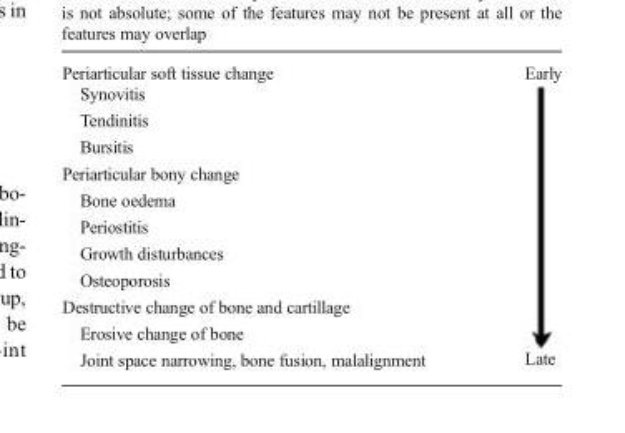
<table><tbody><tr><td>Periarticular soft tissue change</td><td rowspan="12">Early Late</td></tr><tr><td>Synovitis</td></tr><tr><td>Tendinitis</td></tr><tr><td>Bursitis</td></tr><tr><td>Periarticular bony change</td></tr><tr><td>Bone oedema</td></tr><tr><td>Periostitis</td></tr><tr><td>Growth disturbances</td></tr><tr><td>Osteoporosis</td></tr><tr><td>Destructive change of bone and cartillage</td></tr><tr><td>Erosive change of bone</td></tr><tr><td>Joint space narrowing, bone fusion, malalignment</td></tr></tbody></table>